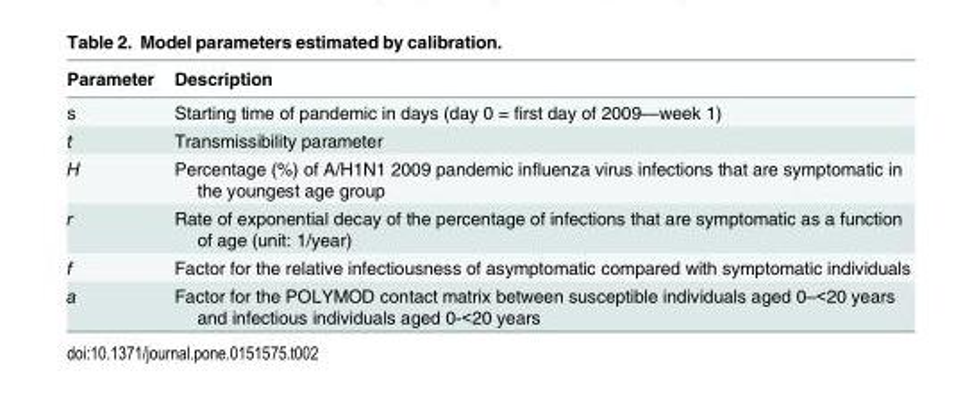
<table><thead><tr><td>Parameter</td><td>Description</td></tr></thead><tbody><tr><td>s</td><td>Starting time of pandemic in days (day 0 = first day of 2009—week 1)</td></tr><tr><td>t</td><td>Transmissibility parameter</td></tr><tr><td>H</td><td>Percentage (%) of A/H1N1 2009 pandemic influenza virus infections that are symptomatic in the youngest age group</td></tr><tr><td>r</td><td>Rate of exponential decay of the percentage of infections that are symptomatic as a function of age (unit: 1/year)</td></tr><tr><td>f</td><td>Factor for the relative infectiousness of asymptomatic compared with symptomatic individuals</td></tr><tr><td>a</td><td>Factor for the POLYMOD contact matrix between susceptible individuals aged 0–&lt;20 years and infectious individuals aged 0-&lt;20 years</td></tr></tbody></table>